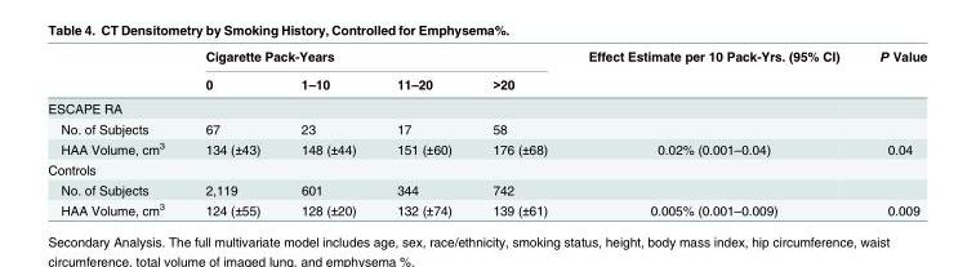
<table><thead><tr><td rowspan="2"></td><td colspan="4">Cigarette Pack-Years</td><td rowspan="2">Effect Estimate per 10 Pack-Yrs. (95% CI)</td><td rowspan="2">P Value</td></tr><tr><td>0</td><td>1–10</td><td>11–20</td><td>&gt;20</td></tr></thead><tbody><tr><td colspan="7">ESCAPE RA</td></tr><tr><td>No. of Subjects</td><td>67</td><td>23</td><td>17</td><td>58</td><td></td><td></td></tr><tr><td>HAA Volume, cm<sup>3</sup></td><td>134 (±43)</td><td>148 (±44)</td><td>151 (±60)</td><td>176 (±68)</td><td>0.02% (0.001–0.04)</td><td>0.04</td></tr><tr><td colspan="7">Controls</td></tr><tr><td>No. of Subjects</td><td>2,119</td><td>601</td><td>344</td><td>742</td><td></td><td></td></tr><tr><td>HAA Volume, cm<sup>3</sup></td><td>124 (±55)</td><td>128 (±20)</td><td>132 (±74)</td><td>139 (±61)</td><td>0.005% (0.001–0.009)</td><td>0.009</td></tr></tbody></table>